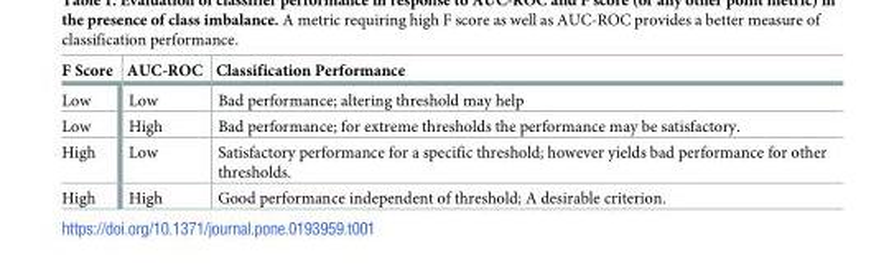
<table><thead><tr><td>F Score</td><td>AUC-ROC</td><td>Classification Performance</td></tr></thead><tbody><tr><td>Low</td><td>Low</td><td>Bad performance; altering threshold may help</td></tr><tr><td>Low</td><td>High</td><td>Bad performance; for extreme thresholds the performance may be satisfactory.</td></tr><tr><td>High</td><td>Low</td><td>Satisfactory performance for a specific threshold; however yields bad performance for other thresholds.</td></tr><tr><td>High</td><td>High</td><td>Good performance independent of threshold; A desirable criterion.</td></tr></tbody></table>